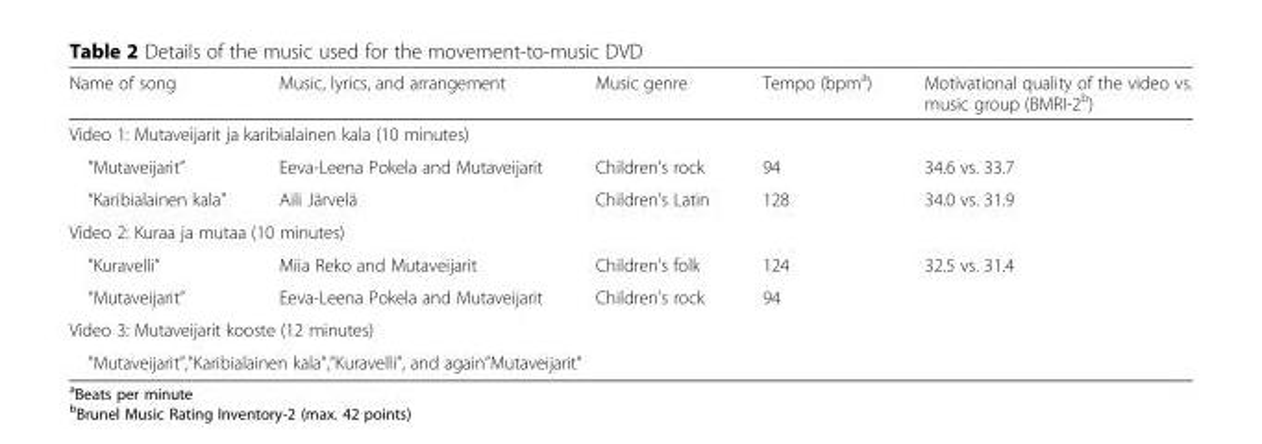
<table><thead><tr><td>Name of song</td><td>Music, lyrics, and arrangement</td><td>Music genre</td><td>Tempo (bpm<sup>a</sup>)</td><td>Motivational quality of the video vs. music group (BMRI-2<sup>b</sup>)</td></tr></thead><tbody><tr><td colspan="5">Video 1: Mutaveijarit ja karibialainen kala (10 minutes)</td></tr><tr><td>”Mutaveijarit”</td><td>Eeva-Leena Pokela and Mutaveijarit</td><td>Children’s rock</td><td>94</td><td>34.6 vs. 33.7</td></tr><tr><td>“Karibialainen kala”</td><td>Aili Järvelä</td><td>Children’s Latin</td><td>128</td><td>34.0 vs. 31.9</td></tr><tr><td colspan="5">Video 2: Kuraa ja mutaa (10 minutes)</td></tr><tr><td>”Kuravelli”</td><td>Miia Reko and Mutaveijarit</td><td>Children’s folk</td><td>124</td><td>32.5 vs. 31.4</td></tr><tr><td>“Mutaveijarit”</td><td>Eeva-Leena Pokela and Mutaveijarit</td><td>Children’s rock</td><td>94</td><td></td></tr><tr><td colspan="5">Video 3: Mutaveijarit kooste (12 minutes)</td></tr><tr><td colspan="5">”Mutaveijarit”,”Karibialainen kala”,”Kuravelli”, and again”Mutaveijarit”</td></tr></tbody></table>